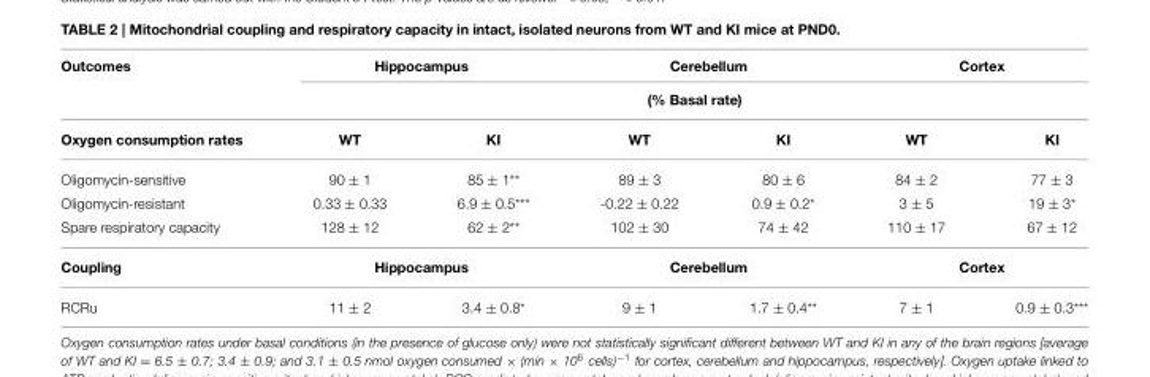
<table><thead><tr><td rowspan="3">Outcomes Oxygen consumption rates</td><td colspan="2">Hippocampus</td><td colspan="2">Cerebellum</td><td colspan="2">Cortex</td></tr><tr><td colspan="6">(% Basal rate)</td></tr><tr><td>WT</td><td>KI</td><td>WT</td><td>KI</td><td>WT</td><td>KI</td></tr></thead><tbody><tr><td>Oligomycin-sensitive</td><td>90 ± 1</td><td>85 ± 1**</td><td>89 ± 3</td><td>80 ± 6</td><td>84 ± 2</td><td>77 ± 3</td></tr><tr><td>Oligomycin-resistant</td><td>0.33 ± 0.33</td><td>6.9 ± 0.5***</td><td>-0.22 ± 0.22</td><td>0.9 ± 0.2*</td><td>3 ± 5</td><td>19 ± 3*</td></tr><tr><td>Spare respiratory capacity</td><td>128 ± 12</td><td>62 ± 2**</td><td>102 ± 30</td><td>74 ± 42</td><td>110 ± 17</td><td>67 ± 12</td></tr><tr><td>Coupling</td><td colspan="2">Hippocampus</td><td colspan="2">Cerebellum</td><td colspan="2">Cortex</td></tr><tr><td>RCRu</td><td>11 ± 2</td><td>3.4 ± 0.8*</td><td>9 ± 1</td><td>1.7 ± 0.4**</td><td>7 ± 1</td><td>0.9 ± 0.3***</td></tr></tbody></table>